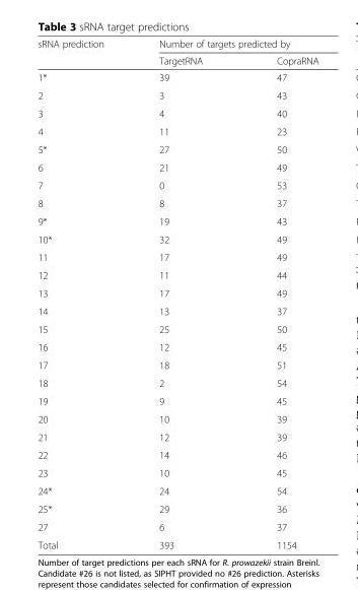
<table><thead><tr><td rowspan="2">sRNA prediction</td><td colspan="2">Number of targets predicted by</td></tr><tr><td>TargetRNA</td><td>CopraRNA</td></tr></thead><tbody><tr><td>1*</td><td>39</td><td>47</td></tr><tr><td>2</td><td>3</td><td>43</td></tr><tr><td>3</td><td>4</td><td>40</td></tr><tr><td>4</td><td>11</td><td>23</td></tr><tr><td>5*</td><td>27</td><td>50</td></tr><tr><td>6</td><td>21</td><td>49</td></tr><tr><td>7</td><td>0</td><td>53</td></tr><tr><td>8</td><td>8</td><td>37</td></tr><tr><td>9*</td><td>19</td><td>43</td></tr><tr><td>10*</td><td>32</td><td>49</td></tr><tr><td>11</td><td>17</td><td>49</td></tr><tr><td>12</td><td>11</td><td>44</td></tr><tr><td>13</td><td>17</td><td>49</td></tr><tr><td>14</td><td>13</td><td>37</td></tr><tr><td>15</td><td>25</td><td>50</td></tr><tr><td>16</td><td>12</td><td>45</td></tr><tr><td>17</td><td>18</td><td>51</td></tr><tr><td>18</td><td>2</td><td>54</td></tr><tr><td>19</td><td>9</td><td>45</td></tr><tr><td>20</td><td>10</td><td>39</td></tr><tr><td>21</td><td>12</td><td>39</td></tr><tr><td>22</td><td>14</td><td>46</td></tr><tr><td>23</td><td>10</td><td>45</td></tr><tr><td>24*</td><td>24</td><td>54</td></tr><tr><td>25*</td><td>29</td><td>36</td></tr><tr><td>27</td><td>6</td><td>37</td></tr><tr><td>Total</td><td>393</td><td>1154</td></tr></tbody></table>